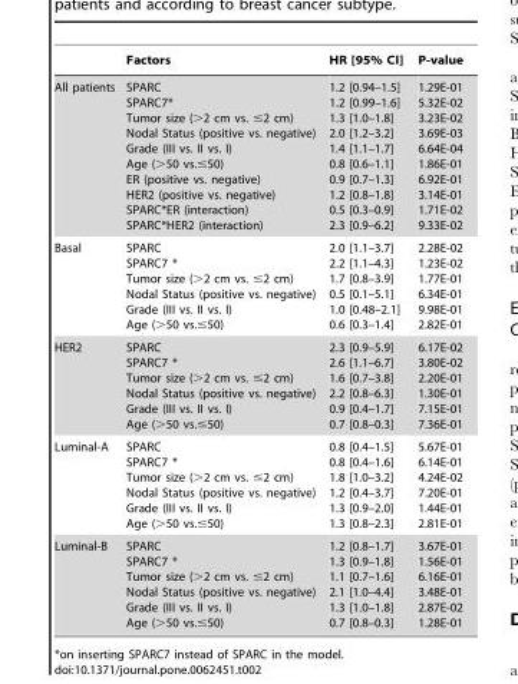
<table><thead><tr><td></td><td>Factors</td><td>HR [95% CI]</td><td>P-value</td></tr></thead><tbody><tr><td>All patients</td><td>SPARC SPARC7* Tumor size (&gt;2 cm vs. ≤2 cm) Nodal Status (positive vs. negative) Grade (III vs. II vs. I) Age (&gt;50 vs.≤50) ER (positive vs. negative) HER2 (positive vs. negative) SPARC*ER (interaction) SPARC*HER2 (interaction)</td><td>1.2 [0.94–1.5] 1.2 [0.99–1.6] 1.3 [1.0–1.8] 2.0 [1.2–3.2] 1.4 [1.1–1.7] 0.8 [0.6–1.1] 0.9 [0.7–1.3] 1.2 [0.8–1.8] 0.5 [0.3–0.9] 2.3 [0.9–6.2]</td><td>1.29E-01 5.32E-02 3.23E-02 3.69E-03 6.64E-04 1.86E-01 6.92E-01 3.14E-01 1.71E-02 9.33E-02</td></tr><tr><td>Basal</td><td>SPARC SPARC7 * Tumor size (&gt;2 cm vs. ≤2 cm) Nodal Status (positive vs. negative) Grade (III vs. II vs. I) Age (&gt;50 vs.≤50)</td><td>2.0 [1.1–3.7] 2.2 [1.1–4.3] 1.7 [0.8–3.9] 0.5 [0.1–5.1] 1.0 [0.48–2.1] 0.6 [0.3–1.4]</td><td>2.28E-02 1.23E-02 1.77E-01 6.34E-01 9.98E-01 2.82E-01</td></tr><tr><td>HER2</td><td>SPARC SPARC7 * Tumor size (&gt;2 cm vs. ≤2 cm) Nodal Status (positive vs. negative) Grade (III vs. II vs. I) Age (&gt;50 vs.≤50)</td><td>2.3 [0.9–5.9] 2.6 [1.1–6.7] 1.6 [0.7–3.8] 2.2 [0.8–6.3] 0.9 [0.4–1.7] 0.7 [0.8–0.3]</td><td>6.17E-02 3.80E-02 2.20E-01 1.30E-01 7.15E-01 7.36E-01</td></tr><tr><td>Luminal-A</td><td>SPARC SPARC7 * Tumor size (&gt;2 cm vs. ≤2 cm) Nodal Status (positive vs. negative) Grade (III vs. II vs. I) Age (&gt;50 vs.≤50)</td><td>0.8 [0.4–1.5] 0.8 [0.4–1.6] 1.8 [1.0–3.2] 1.2 [0.4–3.7] 1.3 [0.9–2.0] 1.3 [0.8–2.3]</td><td>5.67E-01 6.14E-01 4.24E-02 7.20E-01 1.44E-01 2.81E-01</td></tr><tr><td>Luminal-B</td><td>SPARC SPARC7 * Tumor size (&gt;2 cm vs. ≤2 cm) Nodal Status (positive vs. negative) Grade (III vs. II vs. I) Age (&gt;50 vs.≤50)</td><td>1.2 [0.8–1.7] 1.3 [0.9–1.8] 1.1 [0.7–1.6] 2.1 [1.0–4.4] 1.3 [1.0–1.8] 0.7 [0.8–0.3]</td><td>3.67E-01 1.56E-01 6.16E-01 3.48E-01 2.87E-02 1.28E-01</td></tr></tbody></table>